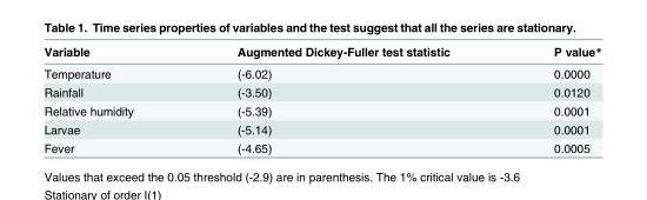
<table><thead><tr><td>Variable</td><td>Augmented Dickey-Fuller test statistic</td><td>P value*</td></tr></thead><tbody><tr><td>Temperature</td><td>(-6.02)</td><td>0.0000</td></tr><tr><td>Rainfall</td><td>(-3.50)</td><td>0.0120</td></tr><tr><td>Relative humidity</td><td>(-5.39)</td><td>0.0001</td></tr><tr><td>Larvae</td><td>(-5.14)</td><td>0.0001</td></tr><tr><td>Fever</td><td>(-4.65)</td><td>0.0005</td></tr></tbody></table>